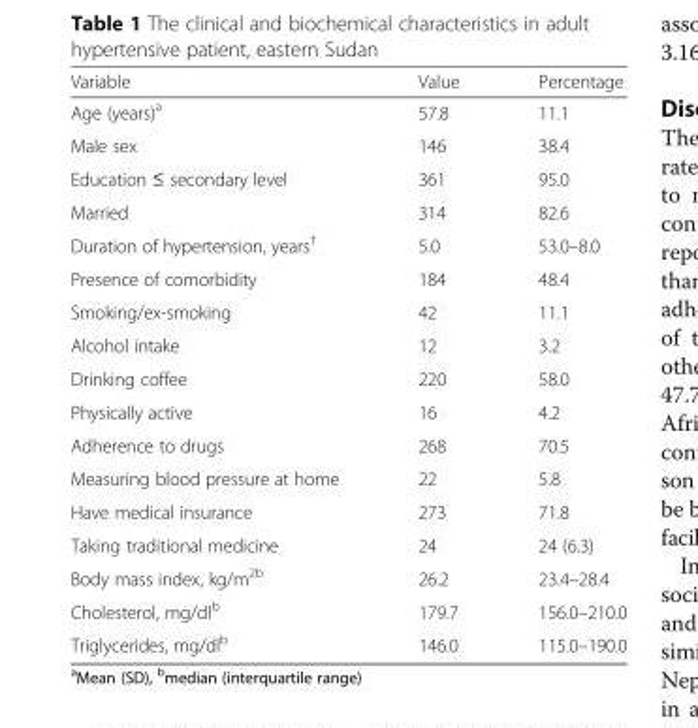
<table><thead><tr><td>Variable</td><td>Value</td><td>Percentage</td></tr></thead><tbody><tr><td>Age (years)<sup>a</sup></td><td>57.8</td><td>11.1</td></tr><tr><td>Male sex</td><td>146</td><td>38.4</td></tr><tr><td>Education ≤ secondary level</td><td>361</td><td>95.0</td></tr><tr><td>Married</td><td>314</td><td>82.6</td></tr><tr><td>Duration of hypertension, years<sup>†</sup></td><td>5.0</td><td>53.0–8.0</td></tr><tr><td>Presence of comorbidity</td><td>184</td><td>48.4</td></tr><tr><td>Smoking/ex-smoking</td><td>42</td><td>11.1</td></tr><tr><td>Alcohol intake</td><td>12</td><td>3.2</td></tr><tr><td>Drinking coffee</td><td>220</td><td>58.0</td></tr><tr><td>Physically active</td><td>16</td><td>4.2</td></tr><tr><td>Adherence to drugs</td><td>268</td><td>70.5</td></tr><tr><td>Measuring blood pressure at home</td><td>22</td><td>5.8</td></tr><tr><td>Have medical insurance</td><td>273</td><td>71.8</td></tr><tr><td>Taking traditional medicine</td><td>24</td><td>24 (6.3)</td></tr><tr><td>Body mass index, kg/m<sup>2b</sup></td><td>26.2</td><td>23.4–28.4</td></tr><tr><td>Cholesterol, mg/dl<sup>b</sup></td><td>179.7</td><td>156.0–210.0</td></tr><tr><td>Triglycerides, mg/dl<sup>b</sup></td><td>146.0</td><td>115.0–190.0</td></tr></tbody></table>